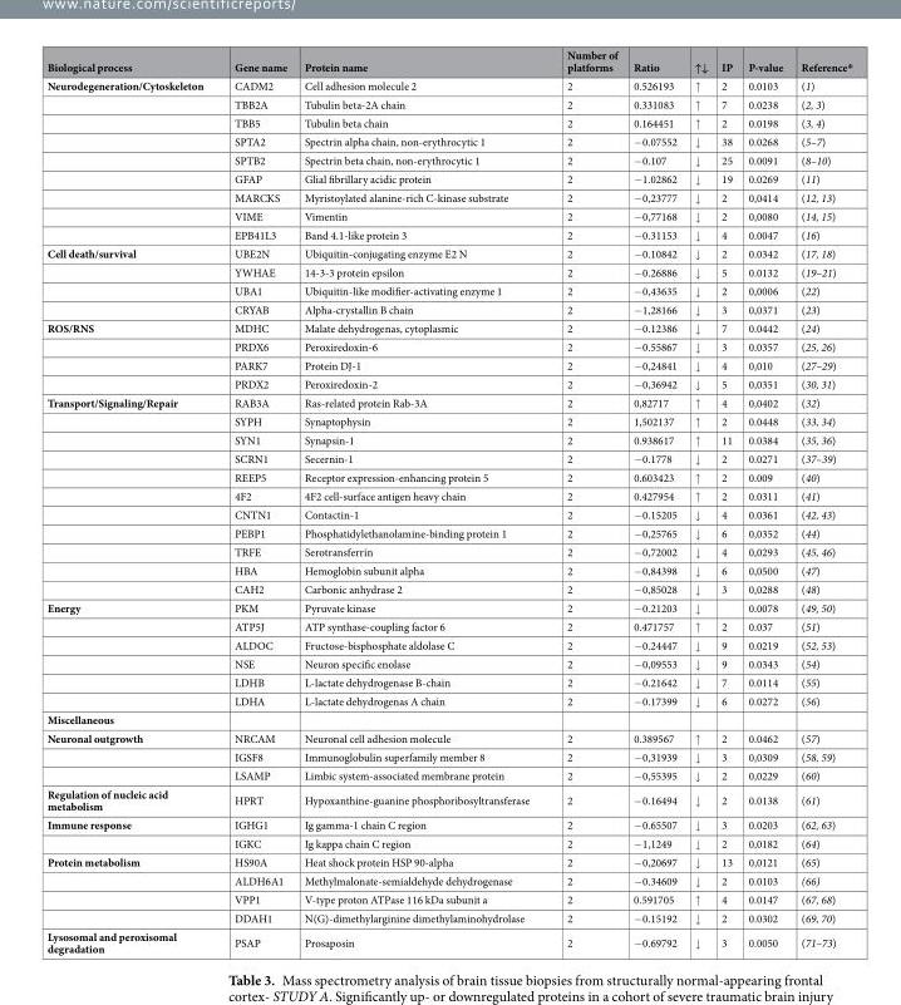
<table><thead><tr><td>Biological process</td><td>Gene name</td><td>Protein name</td><td>Number of platforms</td><td>Ratio</td><td>↑↓</td><td>IP</td><td>P-value</td><td>Reference*</td></tr></thead><tbody><tr><td rowspan="9">Neurodegeneration/Cytoskeleton</td><td>CADM2</td><td>Cell adhesion molecule 2</td><td>2</td><td>0.526193</td><td>↑</td><td>2</td><td>0.0103</td><td>(1)</td></tr><tr><td>TBB2A</td><td>Tubulin beta-2A chain</td><td>2</td><td>0.331083</td><td>↑</td><td>7</td><td>0.0238</td><td>(2, 3)</td></tr><tr><td>TBB5</td><td>Tubulin beta chain</td><td>2</td><td>0.164451</td><td>↑</td><td>2</td><td>0.0198</td><td>(3, 4)</td></tr><tr><td>SPTA2</td><td>Spectrin alpha chain, non-erythrocytic 1</td><td>2</td><td>−0.07552</td><td>↓</td><td>38</td><td>0.0268</td><td>(5–7)</td></tr><tr><td>SPTB2</td><td>Spectrin beta chain, non-erythrocytic 1</td><td>2</td><td>−0.107</td><td>↓</td><td>25</td><td>0.0091</td><td>(8–10)</td></tr><tr><td>GFAP</td><td>Glial fibrillary acidic protein</td><td>2</td><td>−1.02862</td><td>↓</td><td>19</td><td>0.0269</td><td>(11)</td></tr><tr><td>MARCKS</td><td>Myristoylated alanine-rich C-kinase substrate</td><td>2</td><td>−0,23777</td><td>↓</td><td>2</td><td>0,0414</td><td>(12, 13)</td></tr><tr><td>VIME</td><td>Vimentin</td><td>2</td><td>−0,77168</td><td>↓</td><td>2</td><td>0,0080</td><td>(14, 15)</td></tr><tr><td>EPB41L3</td><td>Band 4.1-like protein 3</td><td>2</td><td>−0.31153</td><td>↓</td><td>4</td><td>0.0047</td><td>(16)</td></tr><tr><td rowspan="4">Cell death/survival</td><td>UBE2N</td><td>Ubiquitin-conjugating enzyme E2 N</td><td>2</td><td>−0.10842</td><td>↓</td><td>2</td><td>0.0342</td><td>(17, 18)</td></tr><tr><td>YWHAE</td><td>14-3-3 protein epsilon</td><td>2</td><td>−0.26886</td><td>↓</td><td>5</td><td>0.0132</td><td>(19–21)</td></tr><tr><td>UBA1</td><td>Ubiquitin-like modifier-activating enzyme 1</td><td>2</td><td>−0,43635</td><td>↓</td><td>2</td><td>0,0006</td><td>(22)</td></tr><tr><td>CRYAB</td><td>Alpha-crystallin B chain</td><td>2</td><td>−1,28166</td><td>↓</td><td>3</td><td>0,0371</td><td>(23)</td></tr><tr><td rowspan="4">ROS/RNS</td><td>MDHC</td><td>Malate dehydrogenas, cytoplasmic</td><td>2</td><td>−0.12386</td><td>↓</td><td>7</td><td>0.0442</td><td>(24)</td></tr><tr><td>PRDX6</td><td>Peroxiredoxin-6</td><td>2</td><td>−0.55867</td><td>↓</td><td>3</td><td>0.0357</td><td>(25, 26)</td></tr><tr><td>PARK7</td><td>Protein DJ-1</td><td>2</td><td>−0,24841</td><td>↓</td><td>4</td><td>0,010</td><td>(27–29)</td></tr><tr><td>PRDX2</td><td>Peroxiredoxin-2</td><td>2</td><td>−0,36942</td><td>↓</td><td>5</td><td>0,0351</td><td>(30, 31)</td></tr><tr><td rowspan="11">Transport/Signaling/Repair</td><td>RAB3A</td><td>Ras-related protein Rab-3A</td><td>2</td><td>0,82717</td><td>↑</td><td>4</td><td>0,0402</td><td>(32)</td></tr><tr><td>SYPH</td><td>Synaptophysin</td><td>2</td><td>1,502137</td><td>↑</td><td>2</td><td>0.0448</td><td>(33, 34)</td></tr><tr><td>SYN1</td><td>Synapsin-1</td><td>2</td><td>0.938617</td><td>↑</td><td>11</td><td>0.0384</td><td>(35, 36)</td></tr><tr><td>SCRN1</td><td>Secernin-1</td><td>2</td><td>−0.1778</td><td>↓</td><td>2</td><td>0.0271</td><td>(37–39)</td></tr><tr><td>REEP5</td><td>Receptor expression-enhancing protein 5</td><td>2</td><td>0.603423</td><td>↑</td><td>2</td><td>0.009</td><td>(40)</td></tr><tr><td>4F2</td><td>4F2 cell-surface antigen heavy chain</td><td>2</td><td>0.427954</td><td>↑</td><td>2</td><td>0.0311</td><td>(41)</td></tr><tr><td>CNTN1</td><td>Contactin-1</td><td>2</td><td>−0.15205</td><td>↓</td><td>4</td><td>0.0361</td><td>(42, 43)</td></tr><tr><td>PEBP1</td><td>Phosphatidylethanolamine-binding protein 1</td><td>2</td><td>−0,25765</td><td>↓</td><td>6</td><td>0,0352</td><td>(44)</td></tr><tr><td>TRFE</td><td>Serotransferrin</td><td>2</td><td>−0,72002</td><td>↓</td><td>4</td><td>0,0293</td><td>(45, 46)</td></tr><tr><td>HBA</td><td>Hemoglobin subunit alpha</td><td>2</td><td>−0,84398</td><td>↓</td><td>6</td><td>0,0500</td><td>(47)</td></tr><tr><td>CAH2</td><td>Carbonic anhydrase 2</td><td>2</td><td>−0,85028</td><td>↓</td><td>3</td><td>0,0288</td><td>(48)</td></tr><tr><td rowspan="6">Energy</td><td>PKM</td><td>Pyruvate kinase</td><td>2</td><td>−0.21203</td><td>↓</td><td></td><td>0.0078</td><td>(49, 50)</td></tr><tr><td>ATP5J</td><td>ATP synthase-coupling factor 6</td><td>2</td><td>0.471757</td><td>↑</td><td>2</td><td>0.037</td><td>(51)</td></tr><tr><td>ALDOC</td><td>Fructose-bisphosphate aldolase C</td><td>2</td><td>−0.24447</td><td>↓</td><td>9</td><td>0.0219</td><td>(52, 53)</td></tr><tr><td>NSE</td><td>Neuron specific enolase</td><td>2</td><td>−0,09553</td><td>↓</td><td>9</td><td>0.0343</td><td>(54)</td></tr><tr><td>LDHB</td><td>L-lactate dehydrogenase B-chain</td><td>2</td><td>−0.21642</td><td>↓</td><td>7</td><td>0.0114</td><td>(55)</td></tr><tr><td>LDHA</td><td>L-lactate dehydrogenas A chain</td><td>2</td><td>−0.17399</td><td>↓</td><td>6</td><td>0.0272</td><td>(56)</td></tr><tr><td colspan="9">Miscellaneous</td></tr><tr><td rowspan="3">Neuronal outgrowth</td><td>NRCAM</td><td>Neuronal cell adhesion molecule</td><td>2</td><td>0.389567</td><td>↑</td><td>2</td><td>0.0462</td><td>(57)</td></tr><tr><td>IGSF8</td><td>Immunoglobulin superfamily member 8</td><td>2</td><td>−0,31939</td><td>↓</td><td>3</td><td>0,0309</td><td>(58, 59)</td></tr><tr><td>LSAMP</td><td>Limbic system-associated membrane protein</td><td>2</td><td>−0,55395</td><td>↓</td><td>2</td><td>0,0229</td><td>(60)</td></tr><tr><td>Regulation of nucleic acid metabolism</td><td>HPRT</td><td>Hypoxanthine-guanine phosphoribosyltransferase</td><td>2</td><td>−0.16494</td><td>↓</td><td>2</td><td>0.0138</td><td>(61)</td></tr><tr><td rowspan="2">Immune response</td><td>IGHG1</td><td>Ig gamma-1 chain C region</td><td>2</td><td>−0.65507</td><td>↓</td><td>3</td><td>0.0203</td><td>(62, 63)</td></tr><tr><td>IGKC</td><td>Ig kappa chain C region</td><td>2</td><td>−1,1249</td><td>↓</td><td>2</td><td>0,0182</td><td>(64)</td></tr><tr><td rowspan="4">Protein metabolism</td><td>HS90A</td><td>Heat shock protein HSP 90-alpha</td><td>2</td><td>−0,20697</td><td>↓</td><td>13</td><td>0,0121</td><td>(65)</td></tr><tr><td>ALDH6A1</td><td>Methylmalonate-semialdehyde dehydrogenase</td><td>2</td><td>−0.34609</td><td>↓</td><td>2</td><td>0.0103</td><td>(66)</td></tr><tr><td>VPP1</td><td>V-type proton ATPase 116 kDa subunit a</td><td>2</td><td>0.591705</td><td>↑</td><td>4</td><td>0.0147</td><td>(67, 68)</td></tr><tr><td>DDAH1</td><td>N(G)-dimethylarginine dimethylaminohydrolase</td><td>2</td><td>−0.15192</td><td>↓</td><td>2</td><td>0.0302</td><td>(69, 70)</td></tr><tr><td>Lysosomal and peroxisomal degradation</td><td>PSAP</td><td>Prosaposin</td><td>2</td><td>−0.69792</td><td>↓</td><td>3</td><td>0.0050</td><td>(71–73)</td></tr></tbody></table>